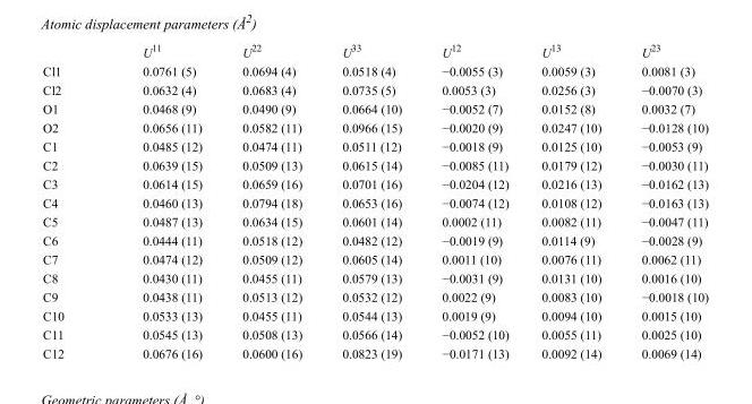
<table><thead><tr><td></td><td>U<sup>11</sup></td><td>U<sup>22</sup></td><td>U<sup>33</sup></td><td>U<sup>12</sup></td><td>U<sup>13</sup></td><td>U<sup>23</sup></td></tr></thead><tbody><tr><td>Cl1</td><td>0.0761 (5)</td><td>0.0694 (4)</td><td>0.0518 (4)</td><td>−0.0055 (3)</td><td>0.0059 (3)</td><td>0.0081 (3)</td></tr><tr><td>Cl2</td><td>0.0632 (4)</td><td>0.0683 (4)</td><td>0.0735 (5)</td><td>0.0053 (3)</td><td>0.0256 (3)</td><td>−0.0070 (3)</td></tr><tr><td>O1</td><td>0.0468 (9)</td><td>0.0490 (9)</td><td>0.0664 (10)</td><td>−0.0052 (7)</td><td>0.0152 (8)</td><td>0.0032 (7)</td></tr><tr><td>O2</td><td>0.0656 (11)</td><td>0.0582 (11)</td><td>0.0966 (15)</td><td>−0.0020 (9)</td><td>0.0247 (10)</td><td>−0.0128 (10)</td></tr><tr><td>C1</td><td>0.0485 (12)</td><td>0.0474 (11)</td><td>0.0511 (12)</td><td>−0.0018 (9)</td><td>0.0125 (10)</td><td>−0.0053 (9)</td></tr><tr><td>C2</td><td>0.0639 (15)</td><td>0.0509 (13)</td><td>0.0615 (14)</td><td>−0.0085 (11)</td><td>0.0179 (12)</td><td>−0.0030 (11)</td></tr><tr><td>C3</td><td>0.0614 (15)</td><td>0.0659 (16)</td><td>0.0701 (16)</td><td>−0.0204 (12)</td><td>0.0216 (13)</td><td>−0.0162 (13)</td></tr><tr><td>C4</td><td>0.0460 (13)</td><td>0.0794 (18)</td><td>0.0653 (16)</td><td>−0.0074 (12)</td><td>0.0108 (12)</td><td>−0.0163 (13)</td></tr><tr><td>C5</td><td>0.0487 (13)</td><td>0.0634 (15)</td><td>0.0601 (14)</td><td>0.0002 (11)</td><td>0.0082 (11)</td><td>−0.0047 (11)</td></tr><tr><td>C6</td><td>0.0444 (11)</td><td>0.0518 (12)</td><td>0.0482 (12)</td><td>−0.0019 (9)</td><td>0.0114 (9)</td><td>−0.0028 (9)</td></tr><tr><td>C7</td><td>0.0474 (12)</td><td>0.0509 (12)</td><td>0.0605 (14)</td><td>0.0011 (10)</td><td>0.0076 (11)</td><td>0.0062 (11)</td></tr><tr><td>C8</td><td>0.0430 (11)</td><td>0.0455 (11)</td><td>0.0579 (13)</td><td>−0.0031 (9)</td><td>0.0131 (10)</td><td>0.0016 (10)</td></tr><tr><td>C9</td><td>0.0438 (11)</td><td>0.0513 (12)</td><td>0.0532 (12)</td><td>0.0022 (9)</td><td>0.0083 (10)</td><td>−0.0018 (10)</td></tr><tr><td>C10</td><td>0.0533 (13)</td><td>0.0455 (11)</td><td>0.0544 (13)</td><td>0.0019 (9)</td><td>0.0094 (10)</td><td>0.0015 (10)</td></tr><tr><td>C11</td><td>0.0545 (13)</td><td>0.0508 (13)</td><td>0.0566 (14)</td><td>−0.0052 (10)</td><td>0.0055 (11)</td><td>0.0025 (10)</td></tr><tr><td>C12</td><td>0.0676 (16)</td><td>0.0600 (16)</td><td>0.0823 (19)</td><td>−0.0171 (13)</td><td>0.0092 (14)</td><td>0.0069 (14)</td></tr></tbody></table>